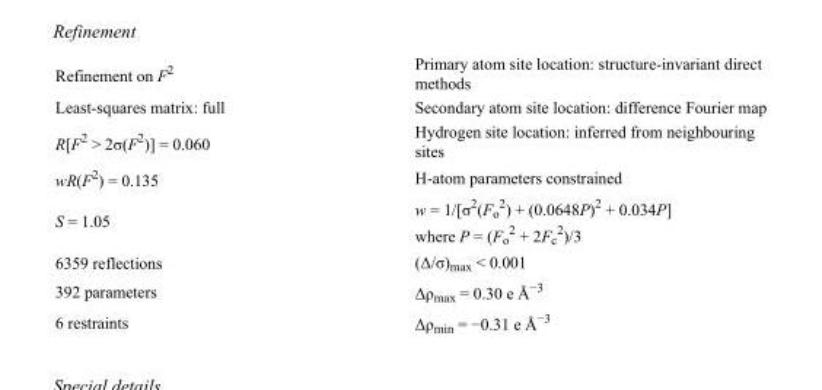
<table><tbody><tr><td>Refinement on F<sup>2</sup></td><td>Primary atom site location: structure-invariant direct methods</td></tr><tr><td>Least-squares matrix: full</td><td>Secondary atom site location: difference Fourier map</td></tr><tr><td>R[F<sup>2</sup> &gt; 2σ(F<sup>2</sup>)] = 0.060</td><td>Hydrogen site location: inferred from neighbouring sites</td></tr><tr><td>wR(F<sup>2</sup>) = 0.135</td><td>H-atom parameters constrained</td></tr><tr><td>S = 1.05</td><td>w = 1/[σ<sup>2</sup>(F<sub>o</sub> <sup>2</sup>) + (0.0648P)<sup>2</sup> + 0.034P] where P = (F<sub>o</sub> <sup>2</sup> + 2F<sub>c</sub> <sup>2</sup>)/3</td></tr><tr><td>6359 reflections</td><td>(Δ/σ)<sub>max</sub> &lt; 0.001</td></tr><tr><td>392 parameters</td><td>Δρ<sub>max</sub> = 0.30 e Å<sup>−3</sup></td></tr><tr><td>6 restraints</td><td>Δρ<sub>min</sub> = −0.31 e Å<sup>−3</sup></td></tr></tbody></table>